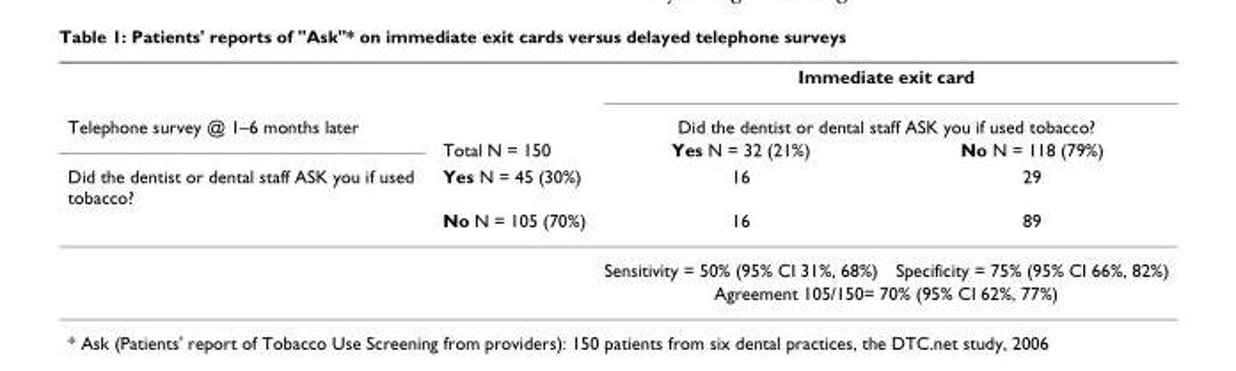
<table><thead><tr><td rowspan="5">Telephone survey @ 1–6 months later Did the dentist or dental staff ASK you if used tobacco?</td><td rowspan="5">Total N = 150 Yes N = 45 (30%) No N = 105 (70%)</td><td rowspan="2" colspan="2">Immediate exit card Did the dentist or dental staff ASK you if used tobacco?</td></tr><tr></tr><tr><td rowspan="3">Yes N = 32 (21%) 16 16</td><td rowspan="3">No N = 118 (79%) 29 89</td></tr><tr></tr><tr></tr></thead><tbody><tr><td></td><td></td><td>Sensitivity = 50% (95% CI 31%, 68%)</td><td>Specificity = 75% (95% CI 66%, 82%)</td></tr><tr><td></td><td></td><td colspan="2">Agreement 105/150= 70% (95% CI 62%, 77%)</td></tr></tbody></table>